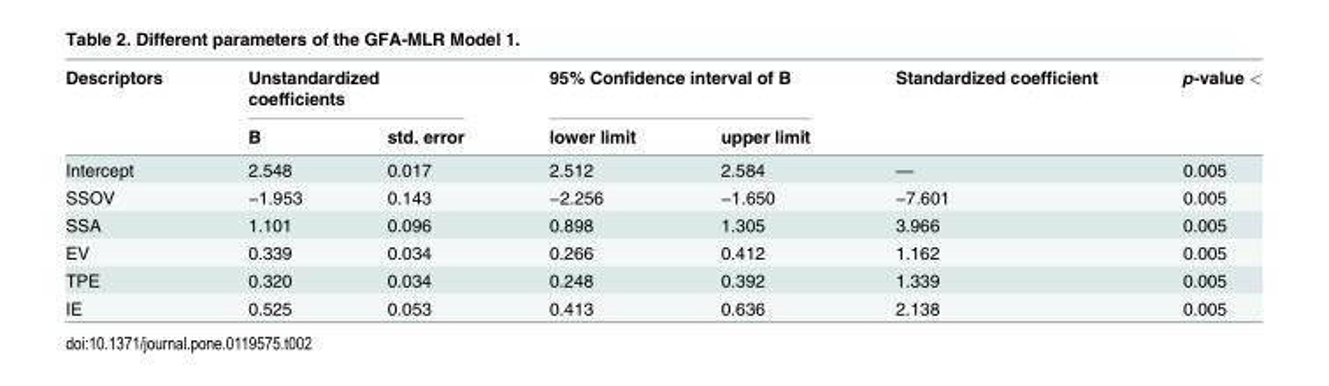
<table><thead><tr><td rowspan="2">Descriptors</td><td colspan="2">Unstandardized coefficients</td><td colspan="2">95% Confidence interval of B</td><td rowspan="2">Standardized coefficient</td><td rowspan="2">p-value &lt;</td></tr><tr><td>B</td><td>std. error</td><td>lower limit</td><td>upper limit</td></tr></thead><tbody><tr><td>Intercept</td><td>2.548</td><td>0.017</td><td>2.512</td><td>2.584</td><td>—</td><td>0.005</td></tr><tr><td>SSOV</td><td>−1.953</td><td>0.143</td><td>−2.256</td><td>−1.650</td><td>−7.601</td><td>0.005</td></tr><tr><td>SSA</td><td>1.101</td><td>0.096</td><td>0.898</td><td>1.305</td><td>3.966</td><td>0.005</td></tr><tr><td>EV</td><td>0.339</td><td>0.034</td><td>0.266</td><td>0.412</td><td>1.162</td><td>0.005</td></tr><tr><td>TPE</td><td>0.320</td><td>0.034</td><td>0.248</td><td>0.392</td><td>1.339</td><td>0.005</td></tr><tr><td>IE</td><td>0.525</td><td>0.053</td><td>0.413</td><td>0.636</td><td>2.138</td><td>0.005</td></tr></tbody></table>